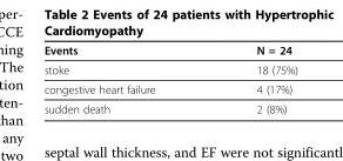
<table><thead><tr><td>Events</td><td>N = 24</td></tr></thead><tbody><tr><td>stoke</td><td>18 (75%)</td></tr><tr><td>congestive heart failure</td><td>4 (17%)</td></tr><tr><td>sudden death</td><td>2 (8%)</td></tr></tbody></table>